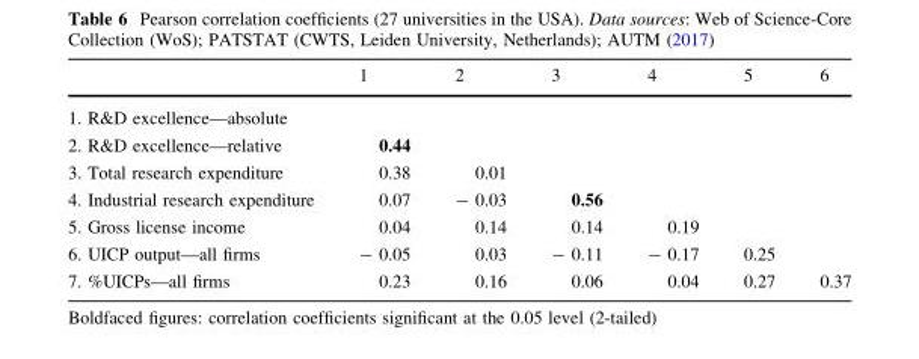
<table><thead><tr><td></td><td>1</td><td>2</td><td>3</td><td>4</td><td>5</td><td>6</td></tr></thead><tbody><tr><td colspan="7">1. R&amp;D excellence—absolute</td></tr><tr><td>2. R&amp;D excellence—relative</td><td>0.44</td><td></td><td></td><td></td><td></td><td></td></tr><tr><td>3. Total research expenditure</td><td>0.38</td><td>0.01</td><td></td><td></td><td></td><td></td></tr><tr><td>4. Industrial research expenditure</td><td>0.07</td><td>- 0.03</td><td>0.56</td><td></td><td></td><td></td></tr><tr><td>5. Gross license income</td><td>0.04</td><td>0.14</td><td>0.14</td><td>0.19</td><td></td><td></td></tr><tr><td>6. UICP output—all firms</td><td>- 0.05</td><td>0.03</td><td>- 0.11</td><td>- 0.17</td><td>0.25</td><td></td></tr><tr><td>7. %UICPs—all firms</td><td>0.23</td><td>0.16</td><td>0.06</td><td>0.04</td><td>0.27</td><td>0.37</td></tr></tbody></table>